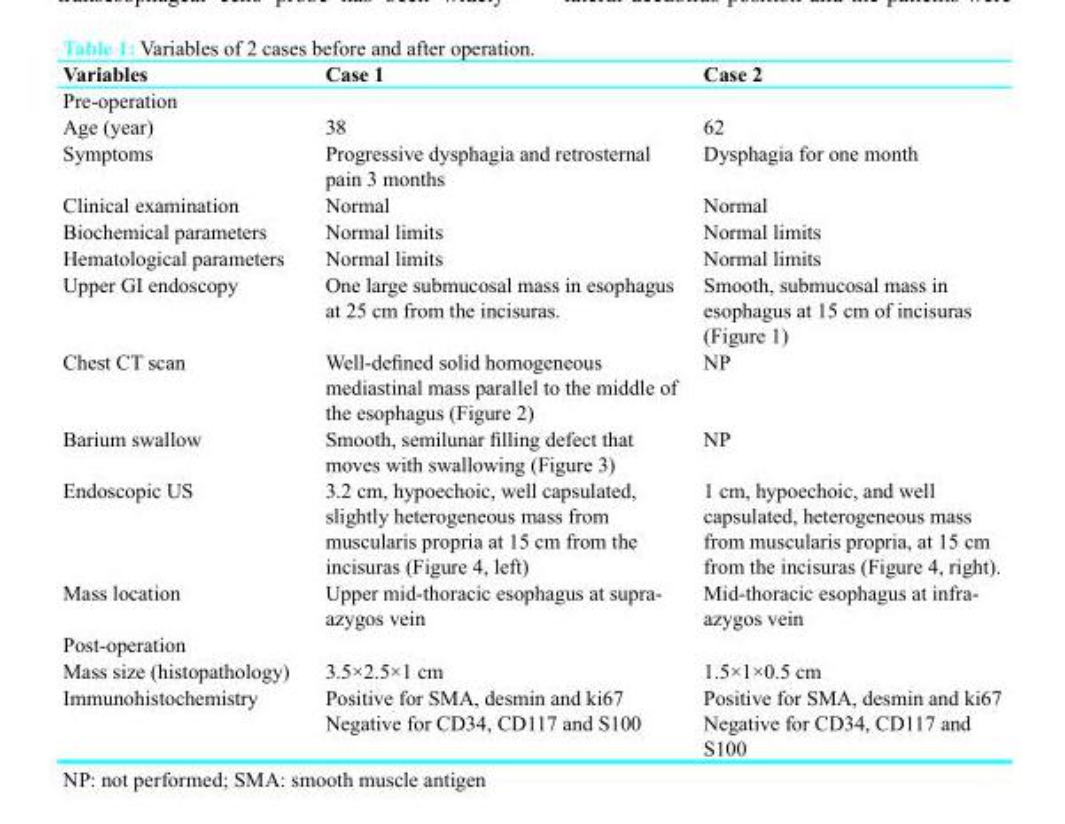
<table><thead><tr><td>Variables</td><td>Case 1</td><td>Case 2</td></tr></thead><tbody><tr><td colspan="3">Pre-operation</td></tr><tr><td>Age (year)</td><td>38</td><td>62</td></tr><tr><td>Symptoms</td><td>Progressive dysphagia and retrosternal pain 3 months</td><td>Dysphagia for one month</td></tr><tr><td>Clinical examination</td><td>Normal</td><td>Normal</td></tr><tr><td>Biochemical parameters</td><td>Normal limits</td><td>Normal limits</td></tr><tr><td>Hematological parameters</td><td>Normal limits</td><td>Normal limits</td></tr><tr><td>Upper GI endoscopy</td><td>One large submucosal mass in esophagus at 25 cm from the incisuras.</td><td>Smooth, submucosal mass in esophagus at 15 cm of incisuras (Figure 1)</td></tr><tr><td>Chest CT scan</td><td>Well-defined solid homogeneous mediastinal mass parallel to the middle of the esophagus (Figure 2)</td><td>NP</td></tr><tr><td>Barium swallow</td><td>Smooth, semilunar filling defect that moves with swallowing (Figure 3)</td><td>NP</td></tr><tr><td>Endoscopic US</td><td>3.2 cm, hypoechoic, well capsulated, slightly heterogeneous mass from muscularis propria at 15 cm from the incisuras (Figure 4, left)</td><td>1 cm, hypoechoic, and well capsulated, heterogeneous mass from muscularis propria, at 15 cm from the incisuras (Figure 4, right).</td></tr><tr><td>Mass location</td><td>Upper mid-thoracic esophagus at supra- azygos vein</td><td>Mid-thoracic esophagus at infra- azygos vein</td></tr><tr><td colspan="3">Post-operation</td></tr><tr><td>Mass size (histopathology)</td><td>3.5×2.5×1 cm</td><td>1.5×1×0.5 cm</td></tr><tr><td>Immunohistochemistry</td><td>Positive for SMA, desmin and ki67 Negative for CD34, CD117 and S100</td><td>Positive for SMA, desmin and ki67 Negative for CD34, CD117 and S100</td></tr></tbody></table>